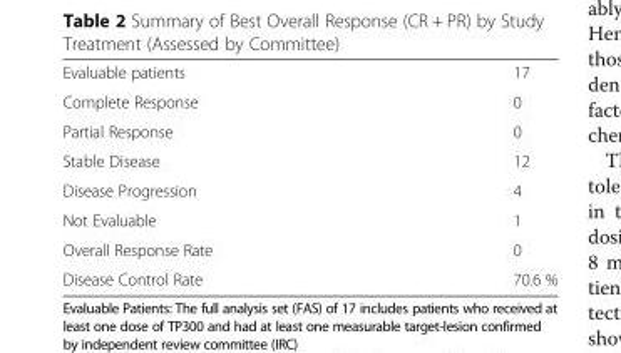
<table><tbody><tr><td>Evaluable patients</td><td>17</td></tr><tr><td>Complete Response</td><td>0</td></tr><tr><td>Partial Response</td><td>0</td></tr><tr><td>Stable Disease</td><td>12</td></tr><tr><td>Disease Progression</td><td>4</td></tr><tr><td>Not Evaluable</td><td>1</td></tr><tr><td>Overall Response Rate</td><td>0</td></tr><tr><td>Disease Control Rate</td><td>70.6 %</td></tr></tbody></table>